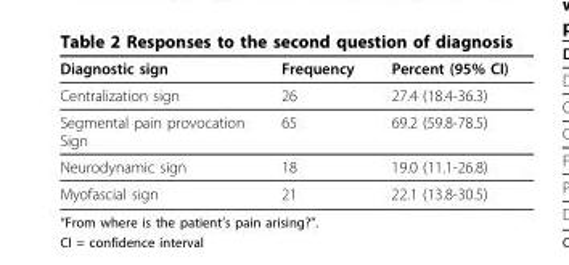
<table><thead><tr><td>Diagnostic sign</td><td>Frequency</td><td>Percent (95% CI)</td></tr></thead><tbody><tr><td>Centralization sign</td><td>26</td><td>27.4 (18.4-36.3)</td></tr><tr><td>Segmental pain provocation Sign</td><td>65</td><td>69.2 (59.8-78.5)</td></tr><tr><td>Neurodynamic sign</td><td>18</td><td>19.0 (11.1-26.8)</td></tr><tr><td>Myofascial sign</td><td>21</td><td>22.1 (13.8-30.5)</td></tr></tbody></table>